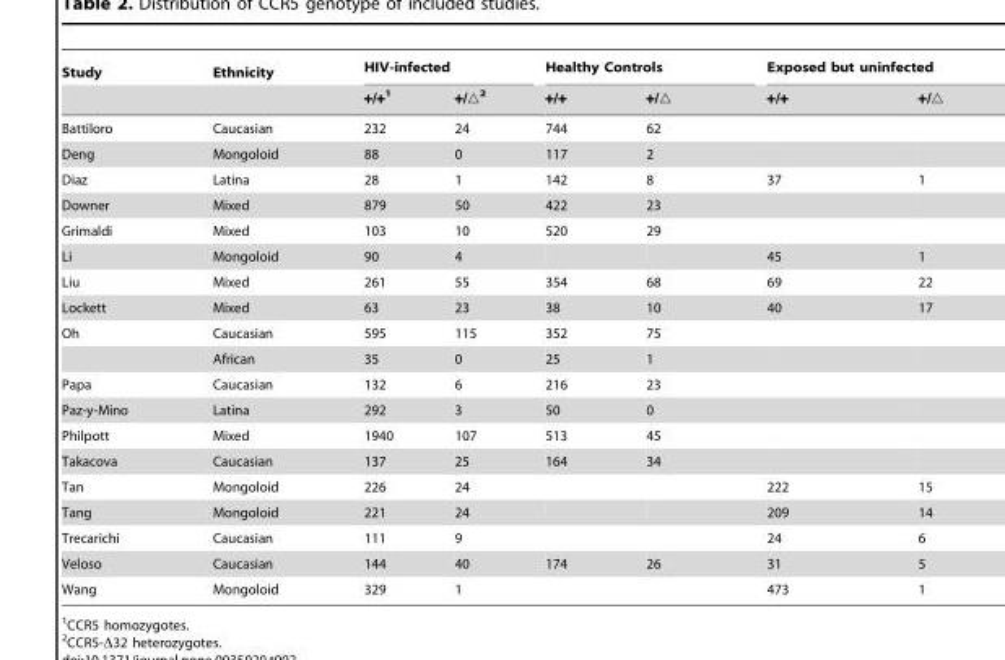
<table><thead><tr><td rowspan="2">Study</td><td rowspan="2">Ethnicity</td><td colspan="2">HIV-infected</td><td colspan="2">Healthy Controls</td><td colspan="2">Exposed but uninfected</td></tr><tr><td>+/+<sup>1</sup></td><td>+/△<sup>2</sup></td><td>+/+</td><td>+/△</td><td>+/+</td><td>+/△</td></tr></thead><tbody><tr><td>Battiloro</td><td>Caucasian</td><td>232</td><td>24</td><td>744</td><td>62</td><td></td><td></td></tr><tr><td>Deng</td><td>Mongoloid</td><td>88</td><td>0</td><td>117</td><td>2</td><td></td><td></td></tr><tr><td>Diaz</td><td>Latina</td><td>28</td><td>1</td><td>142</td><td>8</td><td>37</td><td>1</td></tr><tr><td>Downer</td><td>Mixed</td><td>879</td><td>50</td><td>422</td><td>23</td><td></td><td></td></tr><tr><td>Grimaldi</td><td>Mixed</td><td>103</td><td>10</td><td>520</td><td>29</td><td></td><td></td></tr><tr><td>Li</td><td>Mongoloid</td><td>90</td><td>4</td><td></td><td></td><td>45</td><td>1</td></tr><tr><td>Liu</td><td>Mixed</td><td>261</td><td>55</td><td>354</td><td>68</td><td>69</td><td>22</td></tr><tr><td>Lockett</td><td>Mixed</td><td>63</td><td>23</td><td>38</td><td>10</td><td>40</td><td>17</td></tr><tr><td rowspan="2">Oh</td><td>Caucasian</td><td>595</td><td>115</td><td>352</td><td>75</td><td></td><td></td></tr><tr><td>African</td><td>35</td><td>0</td><td>25</td><td>1</td><td></td><td></td></tr><tr><td>Papa</td><td>Caucasian</td><td>132</td><td>6</td><td>216</td><td>23</td><td></td><td></td></tr><tr><td>Paz-y-Mino</td><td>Latina</td><td>292</td><td>3</td><td>50</td><td>0</td><td></td><td></td></tr><tr><td>Philpott</td><td>Mixed</td><td>1940</td><td>107</td><td>513</td><td>45</td><td></td><td></td></tr><tr><td>Takacova</td><td>Caucasian</td><td>137</td><td>25</td><td>164</td><td>34</td><td></td><td></td></tr><tr><td>Tan</td><td>Mongoloid</td><td>226</td><td>24</td><td></td><td></td><td>222</td><td>15</td></tr><tr><td>Tang</td><td>Mongoloid</td><td>221</td><td>24</td><td></td><td></td><td>209</td><td>14</td></tr><tr><td>Trecarichi</td><td>Caucasian</td><td>111</td><td>9</td><td></td><td></td><td>24</td><td>6</td></tr><tr><td>Veloso</td><td>Caucasian</td><td>144</td><td>40</td><td>174</td><td>26</td><td>31</td><td>5</td></tr><tr><td>Wang</td><td>Mongoloid</td><td>329</td><td>1</td><td></td><td></td><td>473</td><td>1</td></tr></tbody></table>